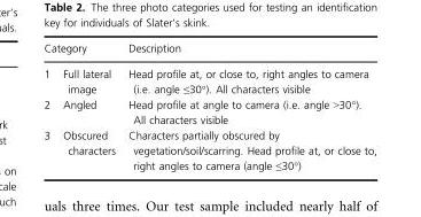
<table><thead><tr><td colspan="2">Category</td><td rowspan="2">Description Head profile at, or close to, right angles to camera (i.e. angle ≤30°). All characters visible</td></tr><tr><td>1</td><td>Full lateral image</td></tr></thead><tbody><tr><td>2</td><td>Angled</td><td>Head profile at angle to camera (i.e. angle &gt;30°). All characters visible</td></tr><tr><td>3</td><td>Obscured characters</td><td>Characters partially obscured by vegetation/soil/scarring. Head profile at, or close to, right angles to camera (angle ≤30°)</td></tr></tbody></table>